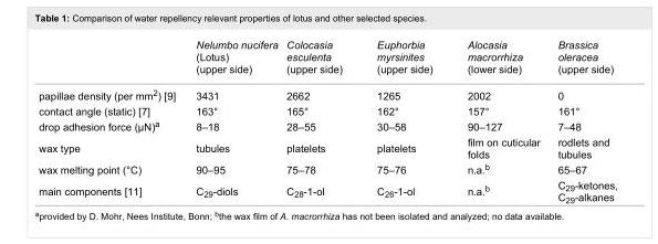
<table><thead><tr><td></td><td>Nelumbo nucifera (Lotus) (upper side)</td><td>Colocasia esculenta (upper side)</td><td>Euphorbia myrsinites (upper side)</td><td>Alocasia macrorrhiza (lower side)</td><td>Brassica oleracea (upper side)</td></tr></thead><tbody><tr><td>papillae density (per mm<sup>2</sup>) [9]</td><td>3431</td><td>2662</td><td>1265</td><td>2002</td><td>0</td></tr><tr><td>contact angle (static) [7]</td><td>163°</td><td>165°</td><td>162°</td><td>157°</td><td>161°</td></tr><tr><td>drop adhesion force (µN)<sup>a</sup></td><td>8–18</td><td>28–55</td><td>30–58</td><td>90–127</td><td>7–48</td></tr><tr><td>wax type</td><td>tubules</td><td>platelets</td><td>platelets</td><td>film on cuticular folds</td><td>rodlets and tubules</td></tr><tr><td>wax melting point (°C)</td><td>90–95</td><td>75–78</td><td>75–76</td><td>n.a.<sup>b</sup></td><td>65–67</td></tr><tr><td>main components [11]</td><td>C<sub>29</sub>-diols</td><td>C<sub>28</sub>-1-ol</td><td>C<sub>26</sub>-1-ol</td><td>n.a.<sup>b</sup></td><td>C<sub>29</sub>-ketones, C<sub>29</sub>-alkanes</td></tr></tbody></table>